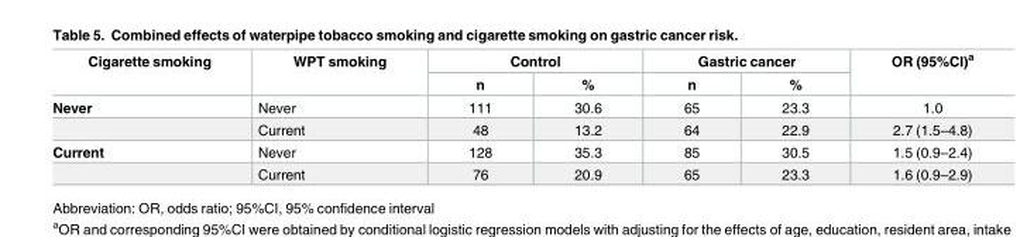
<table><thead><tr><td rowspan="2">Cigarette smoking</td><td rowspan="2">WPT smoking</td><td colspan="2">Control</td><td colspan="2">Gastric cancer</td><td rowspan="2">OR (95%CI)<sup>a</sup></td></tr><tr><td>n</td><td>%</td><td>n</td><td>%</td></tr></thead><tbody><tr><td rowspan="2">Never</td><td>Never</td><td>111</td><td>30.6</td><td>65</td><td>23.3</td><td>1.0</td></tr><tr><td>Current</td><td>48</td><td>13.2</td><td>64</td><td>22.9</td><td>2.7 (1.5–4.8)</td></tr><tr><td rowspan="2">Current</td><td>Never</td><td>128</td><td>35.3</td><td>85</td><td>30.5</td><td>1.5 (0.9–2.4)</td></tr><tr><td>Current</td><td>76</td><td>20.9</td><td>65</td><td>23.3</td><td>1.6 (0.9–2.9)</td></tr></tbody></table>